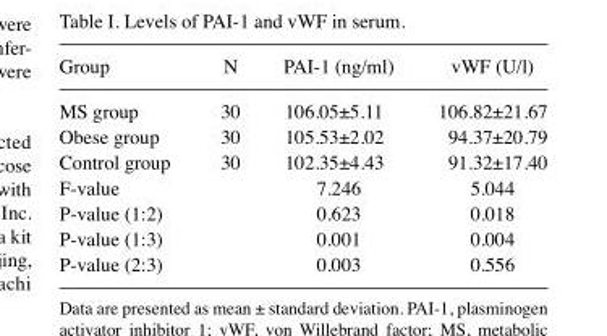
<table><thead><tr><td>Group</td><td>N</td><td>PAI-1 (ng/ml)</td><td>vWF (U/l)</td></tr></thead><tbody><tr><td>MS group</td><td>30</td><td>106.05±5.11</td><td>106.82±21.67</td></tr><tr><td>Obese group</td><td>30</td><td>105.53±2.02</td><td>94.37±20.79</td></tr><tr><td>Control group</td><td>30</td><td>102.35±4.43</td><td>91.32±17.40</td></tr><tr><td>F-value</td><td></td><td>7.246</td><td>5.044</td></tr><tr><td>P-value (1:2)</td><td></td><td>0.623</td><td>0.018</td></tr><tr><td>P-value (1:3)</td><td></td><td>0.001</td><td>0.004</td></tr><tr><td>P-value (2:3)</td><td></td><td>0.003</td><td>0.556</td></tr></tbody></table>